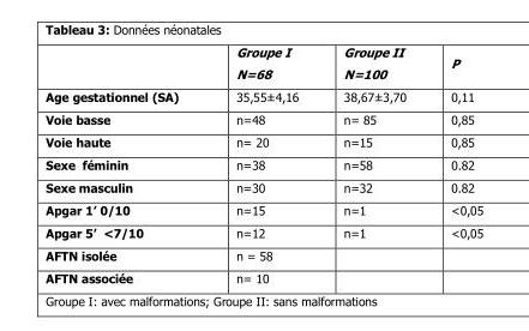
<table><thead><tr><td></td><td>Groupe I N=68</td><td>Groupe II N=100</td><td>P</td></tr></thead><tbody><tr><td>Age gestationnel (SA)</td><td>35,55±4,16</td><td>38,67±3,70</td><td>0,11</td></tr><tr><td>Voie basse</td><td>n=48</td><td>n= 85</td><td>0,85</td></tr><tr><td>Voie haute</td><td>n= 20</td><td>n=15</td><td>0,85</td></tr><tr><td>Sexe féminin</td><td>n=38</td><td>n=58</td><td>0.82</td></tr><tr><td>Sexe masculin</td><td>n=30</td><td>n=32</td><td>0.82</td></tr><tr><td>Apgar 1’ 0/10</td><td>n=15</td><td>n=1</td><td>&lt;0,05</td></tr><tr><td>Apgar 5’ &lt;7/10</td><td>n=12</td><td>n=1</td><td>&lt;0,05</td></tr><tr><td>AFTN isolée</td><td>n = 58</td><td></td><td></td></tr><tr><td>AFTN associée</td><td>n= 10</td><td></td><td></td></tr></tbody></table>